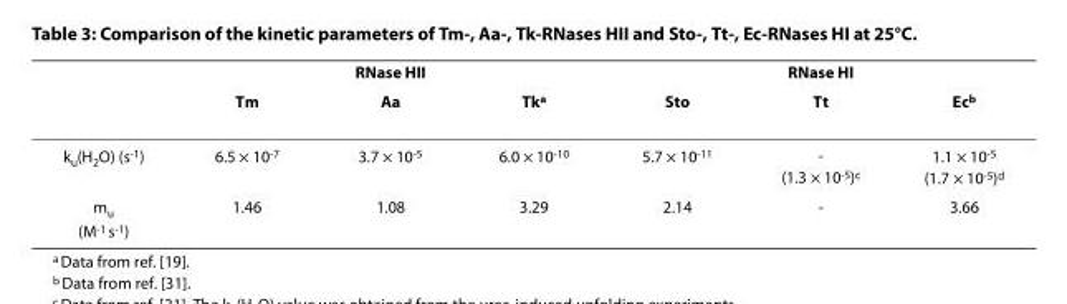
<table><thead><tr><td rowspan="2"></td><td colspan="3">RNase HII</td><td colspan="3">RNase HI</td></tr><tr><td>Tm</td><td>Aa</td><td>Tk<sup>a</sup></td><td>Sto</td><td>Tt</td><td>Ec<sup>b</sup></td></tr></thead><tbody><tr><td>k<sub>u</sub>(H<sub>2</sub>O) (s<sup>-1</sup>)</td><td>6.5 × 10<sup>-7</sup></td><td>3.7 × 10<sup>-5</sup></td><td>6.0 × 10<sup>-10</sup></td><td>5.7 × 10<sup>-11</sup></td><td>- (1.3 × 10<sup>-5</sup>)<sup>c</sup></td><td>1.1 × 10<sup>-5</sup> (1.7 × 10<sup>-5</sup>)<sup>d</sup></td></tr><tr><td>m<sub>u</sub> (M<sup>-1</sup> s<sup>-1</sup>)</td><td>1.46</td><td>1.08</td><td>3.29</td><td>2.14</td><td>-</td><td>3.66</td></tr></tbody></table>